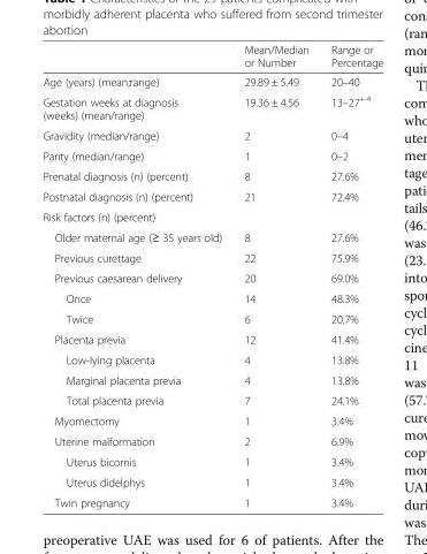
<table><thead><tr><td></td><td>Mean/Median or Number</td><td>Range or Percentage</td></tr></thead><tbody><tr><td>Age (years) (mean;range)</td><td>29.89 ± 5.49</td><td>20–40</td></tr><tr><td>Gestation weeks at diagnosis (weeks) (mean/range)</td><td>19.36 ± 4.56</td><td>13–27<sup>+ 4</sup></td></tr><tr><td>Gravidity (median/range)</td><td>2</td><td>0–4</td></tr><tr><td>Parity (median/range)</td><td>1</td><td>0–2</td></tr><tr><td>Prenatal diagnosis (n) (percent)</td><td>8</td><td>27.6%</td></tr><tr><td>Postnatal diagnosis (n) (percent)</td><td>21</td><td>72.4%</td></tr><tr><td colspan="3">Risk factors (n) (percent)</td></tr><tr><td>Older maternal age (≥ 35 years old)</td><td>8</td><td>27.6%</td></tr><tr><td>Previous curettage</td><td>22</td><td>75.9%</td></tr><tr><td>Previous caesarean delivery</td><td>20</td><td>69.0%</td></tr><tr><td>Once</td><td>14</td><td>48.3%</td></tr><tr><td>Twice</td><td>6</td><td>20.7%</td></tr><tr><td>Placenta previa</td><td>12</td><td>41.4%</td></tr><tr><td>Low-lying placenta</td><td>4</td><td>13.8%</td></tr><tr><td>Marginal placenta previa</td><td>4</td><td>13.8%</td></tr><tr><td>Total placenta previa</td><td>7</td><td>24.1%</td></tr><tr><td>Myomectomy</td><td>1</td><td>3.4%</td></tr><tr><td>Uterine malformation</td><td>2</td><td>6.9%</td></tr><tr><td>Uterus bicornis</td><td>1</td><td>3.4%</td></tr><tr><td>Uterus didelphys</td><td>1</td><td>3.4%</td></tr><tr><td>Twin pregnancy</td><td>1</td><td>3.4%</td></tr></tbody></table>